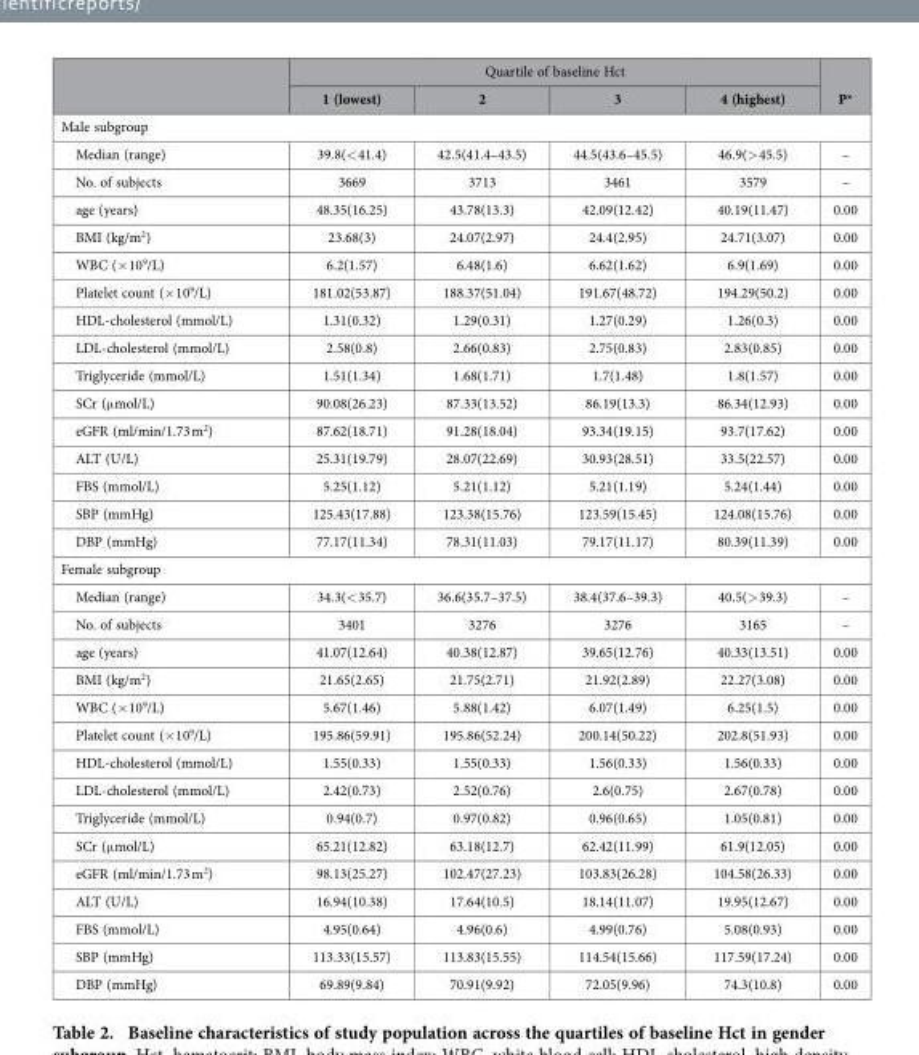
<table><thead><tr><td rowspan="2"></td><td colspan="4">Quartile of baseline Hct</td><td rowspan="2">P*</td></tr><tr><td>1 (lowest)</td><td>2</td><td>3</td><td>4 (highest)</td></tr></thead><tbody><tr><td colspan="6">Male subgroup</td></tr><tr><td>Median (range)</td><td>39.8(&lt; 41.4)</td><td>42.5(41.4–43.5)</td><td>44.5(43.6–45.5)</td><td>46.9(&gt; 45.5)</td><td>–</td></tr><tr><td>No. of subjects</td><td>3669</td><td>3713</td><td>3461</td><td>3579</td><td>–</td></tr><tr><td>age (years)</td><td>48.35(16.25)</td><td>43.78(13.3)</td><td>42.09(12.42)</td><td>40.19(11.47)</td><td>0.00</td></tr><tr><td>BMI (kg/m<sup>2</sup>)</td><td>23.68(3)</td><td>24.07(2.97)</td><td>24.4(2.95)</td><td>24.71(3.07)</td><td>0.00</td></tr><tr><td>WBC (× 10<sup>9</sup>/L)</td><td>6.2(1.57)</td><td>6.48(1.6)</td><td>6.62(1.62)</td><td>6.9(1.69)</td><td>0.00</td></tr><tr><td>Platelet count (× 10<sup>9</sup>/L)</td><td>181.02(53.87)</td><td>188.37(51.04)</td><td>191.67(48.72)</td><td>194.29(50.2)</td><td>0.00</td></tr><tr><td>HDL-cholesterol (mmol/L)</td><td>1.31(0.32)</td><td>1.29(0.31)</td><td>1.27(0.29)</td><td>1.26(0.3)</td><td>0.00</td></tr><tr><td>LDL-cholesterol (mmol/L)</td><td>2.58(0.8)</td><td>2.66(0.83)</td><td>2.75(0.83)</td><td>2.83(0.85)</td><td>0.00</td></tr><tr><td>Triglyceride (mmol/L)</td><td>1.51(1.34)</td><td>1.68(1.71)</td><td>1.7(1.48)</td><td>1.8(1.57)</td><td>0.00</td></tr><tr><td>SCr (μ mol/L)</td><td>90.08(26.23)</td><td>87.33(13.52)</td><td>86.19(13.3)</td><td>86.34(12.93)</td><td>0.00</td></tr><tr><td>eGFR (ml/min/1.73 m<sup>2</sup>)</td><td>87.62(18.71)</td><td>91.28(18.04)</td><td>93.34(19.15)</td><td>93.7(17.62)</td><td>0.00</td></tr><tr><td>ALT (U/L)</td><td>25.31(19.79)</td><td>28.07(22.69)</td><td>30.93(28.51)</td><td>33.5(22.57)</td><td>0.00</td></tr><tr><td>FBS (mmol/L)</td><td>5.25(1.12)</td><td>5.21(1.12)</td><td>5.21(1.19)</td><td>5.24(1.44)</td><td>0.00</td></tr><tr><td>SBP (mmHg)</td><td>125.43(17.88)</td><td>123.38(15.76)</td><td>123.59(15.45)</td><td>124.08(15.76)</td><td>0.00</td></tr><tr><td>DBP (mmHg)</td><td>77.17(11.34)</td><td>78.31(11.03)</td><td>79.17(11.17)</td><td>80.39(11.39)</td><td>0.00</td></tr><tr><td colspan="6">Female subgroup</td></tr><tr><td>Median (range)</td><td>34.3(&lt; 35.7)</td><td>36.6(35.7–37.5)</td><td>38.4(37.6–39.3)</td><td>40.5(&gt; 39.3)</td><td>–</td></tr><tr><td>No. of subjects</td><td>3401</td><td>3276</td><td>3276</td><td>3165</td><td>–</td></tr><tr><td>age (years)</td><td>41.07(12.64)</td><td>40.38(12.87)</td><td>39.65(12.76)</td><td>40.33(13.51)</td><td>0.00</td></tr><tr><td>BMI (kg/m<sup>2</sup>)</td><td>21.65(2.65)</td><td>21.75(2.71)</td><td>21.92(2.89)</td><td>22.27(3.08)</td><td>0.00</td></tr><tr><td>WBC (× 10<sup>9</sup>/L)</td><td>5.67(1.46)</td><td>5.88(1.42)</td><td>6.07(1.49)</td><td>6.25(1.5)</td><td>0.00</td></tr><tr><td>Platelet count (× 10<sup>9</sup>/L)</td><td>195.86(59.91)</td><td>195.86(52.24)</td><td>200.14(50.22)</td><td>202.8(51.93)</td><td>0.00</td></tr><tr><td>HDL-cholesterol (mmol/L)</td><td>1.55(0.33)</td><td>1.55(0.33)</td><td>1.56(0.33)</td><td>1.56(0.33)</td><td>0.00</td></tr><tr><td>LDL-cholesterol (mmol/L)</td><td>2.42(0.73)</td><td>2.52(0.76)</td><td>2.6(0.75)</td><td>2.67(0.78)</td><td>0.00</td></tr><tr><td>Triglyceride (mmol/L)</td><td>0.94(0.7)</td><td>0.97(0.82)</td><td>0.96(0.65)</td><td>1.05(0.81)</td><td>0.00</td></tr><tr><td>SCr (μ mol/L)</td><td>65.21(12.82)</td><td>63.18(12.7)</td><td>62.42(11.99)</td><td>61.9(12.05)</td><td>0.00</td></tr><tr><td>eGFR (ml/min/1.73 m<sup>2</sup>)</td><td>98.13(25.27)</td><td>102.47(27.23)</td><td>103.83(26.28)</td><td>104.58(26.33)</td><td>0.00</td></tr><tr><td>ALT (U/L)</td><td>16.94(10.38)</td><td>17.64(10.5)</td><td>18.14(11.07)</td><td>19.95(12.67)</td><td>0.00</td></tr><tr><td>FBS (mmol/L)</td><td>4.95(0.64)</td><td>4.96(0.6)</td><td>4.99(0.76)</td><td>5.08(0.93)</td><td>0.00</td></tr><tr><td>SBP (mmHg)</td><td>113.33(15.57)</td><td>113.83(15.55)</td><td>114.54(15.66)</td><td>117.59(17.24)</td><td>0.00</td></tr><tr><td>DBP (mmHg)</td><td>69.89(9.84)</td><td>70.91(9.92)</td><td>72.05(9.96)</td><td>74.3(10.8)</td><td>0.00</td></tr></tbody></table>